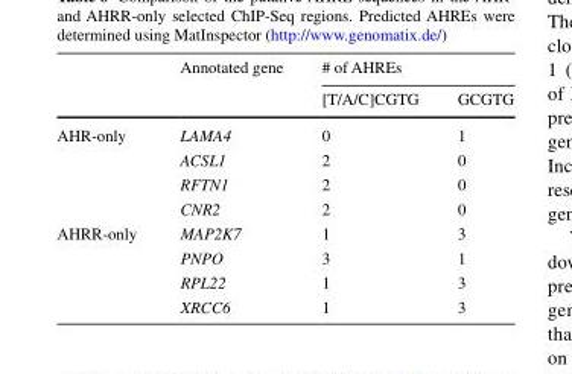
<table><thead><tr><td rowspan="2"></td><td rowspan="2">Annotated gene</td><td colspan="2"># of AHREs</td></tr><tr><td>[T/A/C]CGTG</td><td>GCGTG</td></tr></thead><tbody><tr><td rowspan="4">AHR-only</td><td>LAMA4</td><td>0</td><td>1</td></tr><tr><td>ACSL1</td><td>2</td><td>0</td></tr><tr><td>RFTN1</td><td>2</td><td>0</td></tr><tr><td>CNR2</td><td>2</td><td>0</td></tr><tr><td rowspan="4">AHRR-only</td><td>MAP2K7</td><td>1</td><td>3</td></tr><tr><td>PNPO</td><td>3</td><td>1</td></tr><tr><td>RPL22</td><td>1</td><td>3</td></tr><tr><td>XRCC6</td><td>1</td><td>3</td></tr></tbody></table>